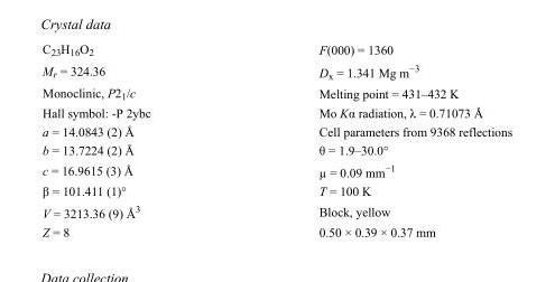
<table><tbody><tr><td>C<sub>23</sub>H<sub>16</sub>O<sub>2</sub></td><td>F(000) = 1360</td></tr><tr><td>M<sub>r</sub> = 324.36</td><td>D<sub>x</sub> = 1.341 Mg m<sup>−3</sup></td></tr><tr><td>Monoclinic, P2<sub>1</sub>/c</td><td>Melting point = 431–432 K</td></tr><tr><td>Hall symbol: -P 2ybc</td><td>Mo Kα radiation, λ = 0.71073 Å</td></tr><tr><td>a = 14.0843 (2) Å</td><td>Cell parameters from 9368 reflections</td></tr><tr><td>b = 13.7224 (2) Å</td><td>θ = 1.9–30.0°</td></tr><tr><td>c = 16.9615 (3) Å</td><td>µ = 0.09 mm<sup>−1</sup></td></tr><tr><td>β = 101.411 (1)°</td><td>T = 100 K</td></tr><tr><td>V = 3213.36 (9) Å<sup>3</sup></td><td>Block, yellow</td></tr><tr><td>Z = 8</td><td>0.50 × 0.39 × 0.37 mm</td></tr></tbody></table>